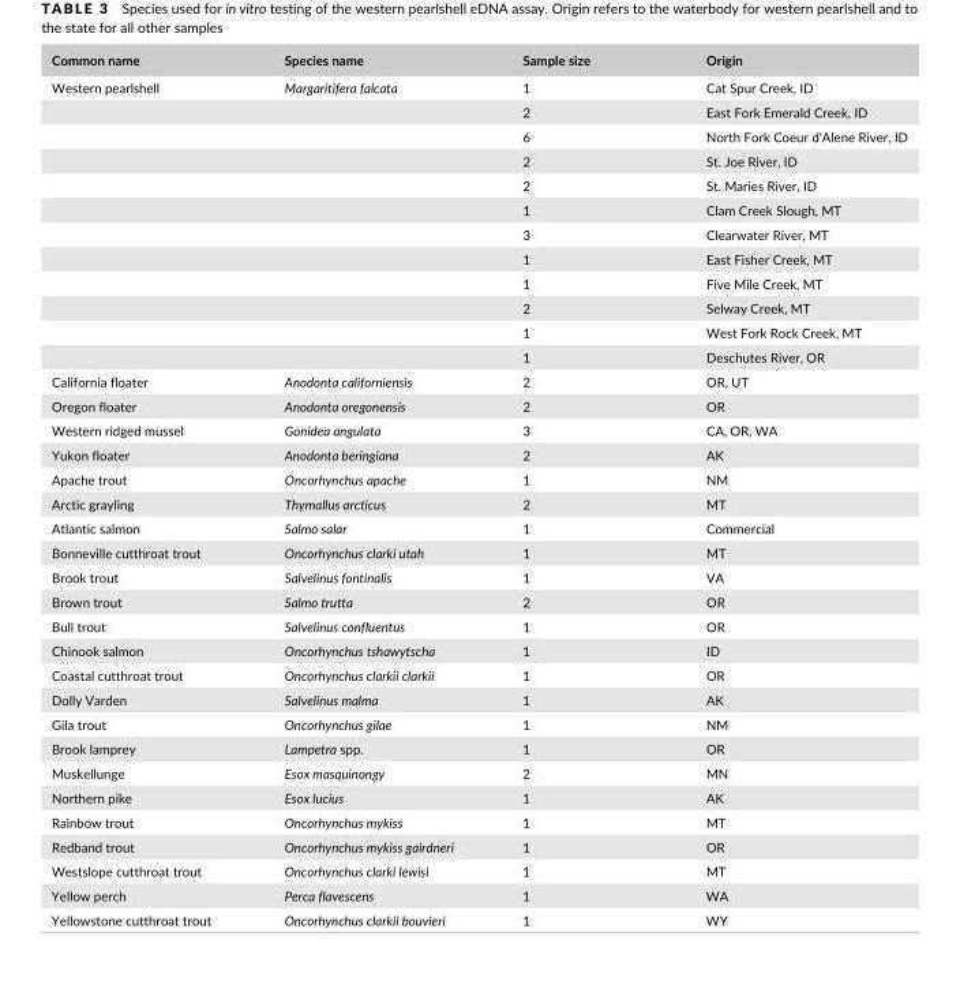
<table><thead><tr><td>Common name</td><td>Species name</td><td>Sample size</td><td>Origin</td></tr></thead><tbody><tr><td rowspan="12">Western pearlshell</td><td>Margaritifera falcata</td><td>1</td><td>Cat Spur Creek, ID</td></tr><tr><td></td><td>2</td><td>East Fork Emerald Creek, ID</td></tr><tr><td></td><td>6</td><td>North Fork Coeur d’Alene River, ID</td></tr><tr><td></td><td>2</td><td>St. Joe River, ID</td></tr><tr><td></td><td>2</td><td>St. Maries River, ID</td></tr><tr><td></td><td>1</td><td>Clam Creek Slough, MT</td></tr><tr><td></td><td>3</td><td>Clearwater River, MT</td></tr><tr><td></td><td>1</td><td>East Fisher Creek, MT</td></tr><tr><td></td><td>1</td><td>Five Mile Creek, MT</td></tr><tr><td></td><td>2</td><td>Selway Creek, MT</td></tr><tr><td></td><td>1</td><td>West Fork Rock Creek, MT</td></tr><tr><td></td><td>1</td><td>Deschutes River, OR</td></tr><tr><td>California floater</td><td>Anodonta californiensis</td><td>2</td><td>OR, UT</td></tr><tr><td>Oregon floater</td><td>Anodonta oregonensis</td><td>2</td><td>OR</td></tr><tr><td>Western ridged mussel</td><td>Gonidea angulata</td><td>3</td><td>CA, OR, WA</td></tr><tr><td>Yukon floater</td><td>Anodonta beringiana</td><td>2</td><td>AK</td></tr><tr><td>Apache trout</td><td>Oncorhynchus apache</td><td>1</td><td>NM</td></tr><tr><td>Arctic grayling</td><td>Thymallus arcticus</td><td>2</td><td>MT</td></tr><tr><td>Atlantic salmon</td><td>Salmo salar</td><td>1</td><td>Commercial</td></tr><tr><td>Bonneville cutthroat trout</td><td>Oncorhynchus clarki utah</td><td>1</td><td>MT</td></tr><tr><td>Brook trout</td><td>Salvelinus fontinalis</td><td>1</td><td>VA</td></tr><tr><td>Brown trout</td><td>Salmo trutta</td><td>2</td><td>OR</td></tr><tr><td>Bull trout</td><td>Salvelinus confluentus</td><td>1</td><td>OR</td></tr><tr><td>Chinook salmon</td><td>Oncorhynchus tshawytscha</td><td>1</td><td>ID</td></tr><tr><td>Coastal cutthroat trout</td><td>Oncorhynchus clarkii clarkii</td><td>1</td><td>OR</td></tr><tr><td>Dolly Varden</td><td>Salvelinus malma</td><td>1</td><td>AK</td></tr><tr><td>Gila trout</td><td>Oncorhynchus gilae</td><td>1</td><td>NM</td></tr><tr><td>Brook lamprey</td><td>Lampetra spp.</td><td>1</td><td>OR</td></tr><tr><td>Muskellunge</td><td>Esox masquinongy</td><td>2</td><td>MN</td></tr><tr><td>Northern pike</td><td>Esox lucius</td><td>1</td><td>AK</td></tr><tr><td>Rainbow trout</td><td>Oncorhynchus mykiss</td><td>1</td><td>MT</td></tr><tr><td>Redband trout</td><td>Oncorhynchus mykiss gairdneri</td><td>1</td><td>OR</td></tr><tr><td>Westslope cutthroat trout</td><td>Oncorhynchus clarki lewisi</td><td>1</td><td>MT</td></tr><tr><td>Yellow perch</td><td>Perca flavescens</td><td>1</td><td>WA</td></tr><tr><td>Yellowstone cutthroat trout</td><td>Oncorhynchus clarkii bouvieri</td><td>1</td><td>WY</td></tr></tbody></table>